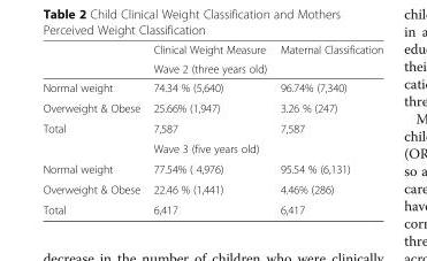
<table><thead><tr><td rowspan="2"></td><td rowspan="2">Clinical Weight Measure Wave 2 (three years old)</td><td rowspan="2">Maternal Classification</td></tr><tr></tr></thead><tbody><tr><td>Normal weight</td><td>74.34 % (5,640)</td><td>96.74% (7,340)</td></tr><tr><td>Overweight &amp; Obese</td><td>25.66% (1,947)</td><td>3.26 % (247)</td></tr><tr><td rowspan="2">Total</td><td>7,587</td><td>7,587</td></tr><tr><td>Wave 3 (five years old)</td><td></td></tr><tr><td>Normal weight</td><td>77.54% ( 4,976)</td><td>95.54 % (6,131)</td></tr><tr><td>Overweight &amp; Obese</td><td>22.46 % (1,441)</td><td>4.46% (286)</td></tr><tr><td>Total</td><td>6,417</td><td>6,417</td></tr></tbody></table>